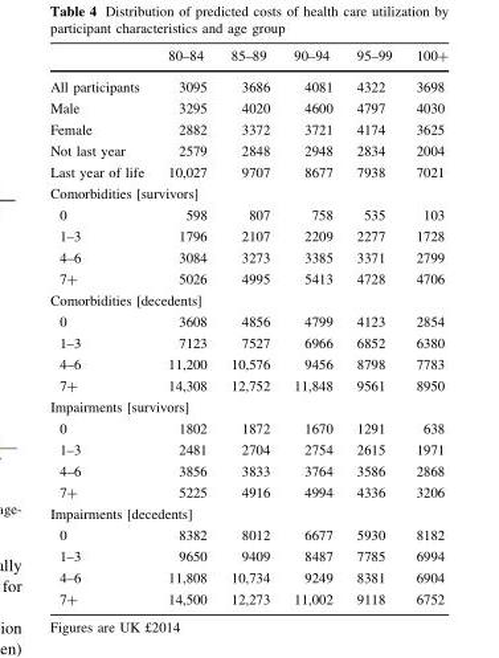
<table><thead><tr><td></td><td>80–84</td><td>85–89</td><td>90–94</td><td>95–99</td><td>100+</td></tr></thead><tbody><tr><td>All participants</td><td>3095</td><td>3686</td><td>4081</td><td>4322</td><td>3698</td></tr><tr><td>Male</td><td>3295</td><td>4020</td><td>4600</td><td>4797</td><td>4030</td></tr><tr><td>Female</td><td>2882</td><td>3372</td><td>3721</td><td>4174</td><td>3625</td></tr><tr><td>Not last year</td><td>2579</td><td>2848</td><td>2948</td><td>2834</td><td>2004</td></tr><tr><td>Last year of life</td><td>10,027</td><td>9707</td><td>8677</td><td>7938</td><td>7021</td></tr><tr><td colspan="6">Comorbidities [survivors]</td></tr><tr><td>0</td><td>598</td><td>807</td><td>758</td><td>535</td><td>103</td></tr><tr><td>1–3</td><td>1796</td><td>2107</td><td>2209</td><td>2277</td><td>1728</td></tr><tr><td>4–6</td><td>3084</td><td>3273</td><td>3385</td><td>3371</td><td>2799</td></tr><tr><td>7+</td><td>5026</td><td>4995</td><td>5413</td><td>4728</td><td>4706</td></tr><tr><td colspan="6">Comorbidities [decedents]</td></tr><tr><td>0</td><td>3608</td><td>4856</td><td>4799</td><td>4123</td><td>2854</td></tr><tr><td>1–3</td><td>7123</td><td>7527</td><td>6966</td><td>6852</td><td>6380</td></tr><tr><td>4–6</td><td>11,200</td><td>10,576</td><td>9456</td><td>8798</td><td>7783</td></tr><tr><td>7+</td><td>14,308</td><td>12,752</td><td>11,848</td><td>9561</td><td>8950</td></tr><tr><td colspan="6">Impairments [survivors]</td></tr><tr><td>0</td><td>1802</td><td>1872</td><td>1670</td><td>1291</td><td>638</td></tr><tr><td>1–3</td><td>2481</td><td>2704</td><td>2754</td><td>2615</td><td>1971</td></tr><tr><td>4–6</td><td>3856</td><td>3833</td><td>3764</td><td>3586</td><td>2868</td></tr><tr><td>7+</td><td>5225</td><td>4916</td><td>4994</td><td>4336</td><td>3206</td></tr><tr><td colspan="6">Impairments [decedents]</td></tr><tr><td>0</td><td>8382</td><td>8012</td><td>6677</td><td>5930</td><td>8182</td></tr><tr><td>1–3</td><td>9650</td><td>9409</td><td>8487</td><td>7785</td><td>6994</td></tr><tr><td>4–6</td><td>11,808</td><td>10,734</td><td>9249</td><td>8381</td><td>6904</td></tr><tr><td>7+</td><td>14,500</td><td>12,273</td><td>11,002</td><td>9118</td><td>6752</td></tr></tbody></table>